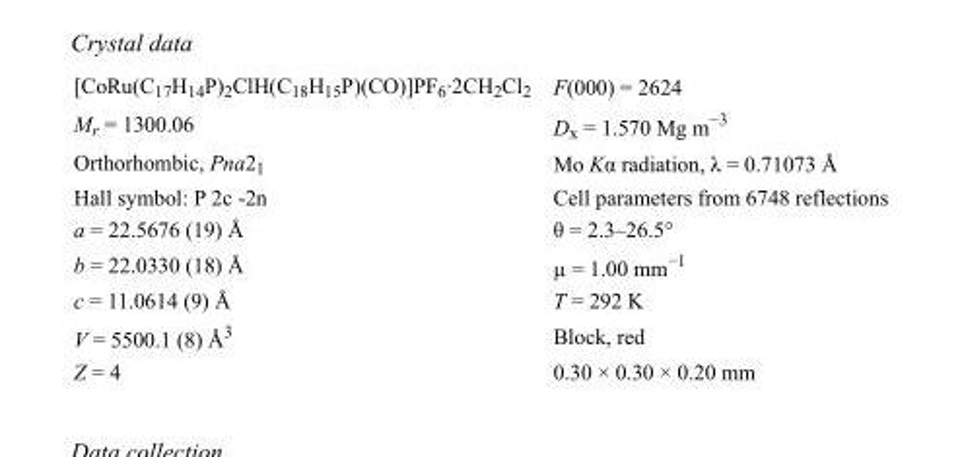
<table><tbody><tr><td>[CoRu(C<sub>17</sub>H<sub>14</sub>P)<sub>2</sub>ClH(C<sub>18</sub>H<sub>15</sub>P)(CO)]PF<sub>6</sub>·2CH<sub>2</sub>Cl<sub>2</sub></td><td>F(000) = 2624</td></tr><tr><td>M<sub>r</sub> = 1300.06</td><td>D<sub>x</sub> = 1.570 Mg m<sup>−3</sup></td></tr><tr><td>Orthorhombic, Pna2<sub>1</sub></td><td>Mo Kα radiation, λ = 0.71073 Å</td></tr><tr><td>Hall symbol: P 2c -2n</td><td>Cell parameters from 6748 reflections</td></tr><tr><td>a = 22.5676 (19) Å</td><td>θ = 2.3–26.5°</td></tr><tr><td>b = 22.0330 (18) Å</td><td>µ = 1.00 mm<sup>−1</sup></td></tr><tr><td>c = 11.0614 (9) Å</td><td>T = 292 K</td></tr><tr><td>V = 5500.1 (8) Å<sup>3</sup></td><td>Block, red</td></tr><tr><td>Z = 4</td><td>0.30 × 0.30 × 0.20 mm</td></tr></tbody></table>